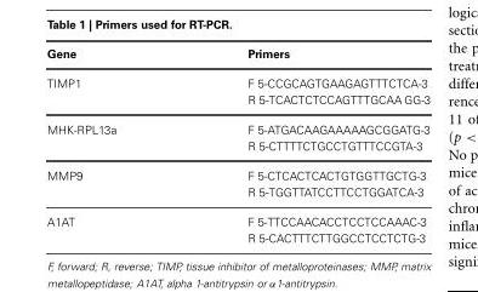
<table><thead><tr><td>Gene</td><td>Primers</td></tr></thead><tbody><tr><td rowspan="2">TIMP1</td><td>F 5-CCGCAGTGAAGAGTTTCTCA-3</td></tr><tr><td>R 5-TCACTCTCCAGTTTGCAA GG-3</td></tr><tr><td rowspan="2">MHK-RPL13a</td><td>F 5-ATGACAAGAAAAAGCGGATG-3</td></tr><tr><td>R 5-CTTTTCTGCCTGTTTCCGTA-3</td></tr><tr><td rowspan="2">MMP9</td><td>F 5-CTCACTCACTGTGGTTGCTG-3</td></tr><tr><td>R 5-TGGTTATCCTTCCTGGATCA-3</td></tr><tr><td rowspan="2">A1AT</td><td>F 5-TTCCAACACCTCCTCCAAAC-3</td></tr><tr><td>R 5-CACTTTCTTGGCCTCCTCTG-3</td></tr></tbody></table>